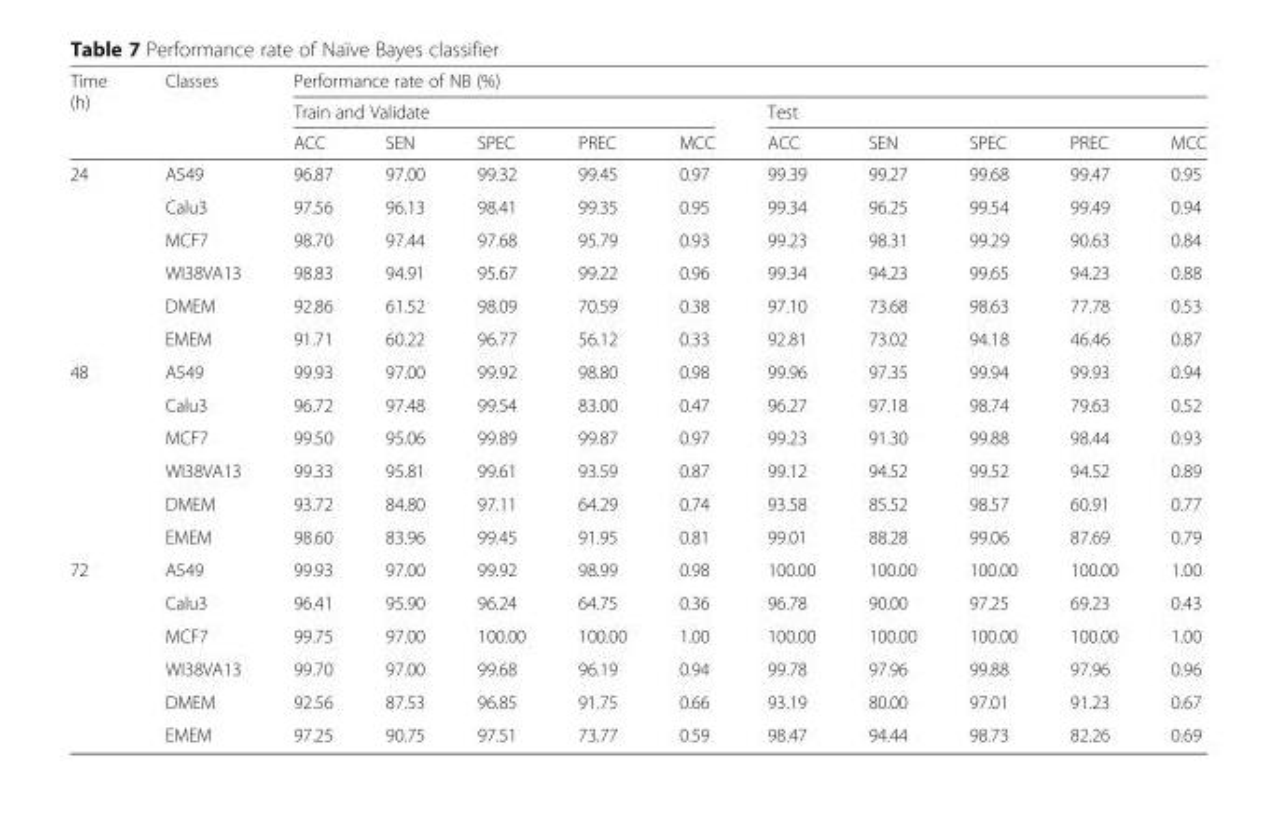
<table><thead><tr><td rowspan="3">Time (h)</td><td rowspan="3">Classes</td><td colspan="10">Performance rate of NB (%)</td></tr><tr><td colspan="5">Train and Validate</td><td colspan="5">Test</td></tr><tr><td>ACC</td><td>SEN</td><td>SPEC</td><td>PREC</td><td>MCC</td><td>ACC</td><td>SEN</td><td>SPEC</td><td>PREC</td><td>MCC</td></tr></thead><tbody><tr><td rowspan="6">24</td><td>A549</td><td>96.87</td><td>97.00</td><td>99.32</td><td>99.45</td><td>0.97</td><td>99.39</td><td>99.27</td><td>99.68</td><td>99.47</td><td>0.95</td></tr><tr><td>Calu3</td><td>97.56</td><td>96.13</td><td>98.41</td><td>99.35</td><td>0.95</td><td>99.34</td><td>96.25</td><td>99.54</td><td>99.49</td><td>0.94</td></tr><tr><td>MCF7</td><td>98.70</td><td>97.44</td><td>97.68</td><td>95.79</td><td>0.93</td><td>99.23</td><td>98.31</td><td>99.29</td><td>90.63</td><td>0.84</td></tr><tr><td>WI38VA13</td><td>98.83</td><td>94.91</td><td>95.67</td><td>99.22</td><td>0.96</td><td>99.34</td><td>94.23</td><td>99.65</td><td>94.23</td><td>0.88</td></tr><tr><td>DMEM</td><td>92.86</td><td>61.52</td><td>98.09</td><td>70.59</td><td>0.38</td><td>97.10</td><td>73.68</td><td>98.63</td><td>77.78</td><td>0.53</td></tr><tr><td>EMEM</td><td>91.71</td><td>60.22</td><td>96.77</td><td>56.12</td><td>0.33</td><td>92.81</td><td>73.02</td><td>94.18</td><td>46.46</td><td>0.87</td></tr><tr><td rowspan="6">48</td><td>A549</td><td>99.93</td><td>97.00</td><td>99.92</td><td>98.80</td><td>0.98</td><td>99.96</td><td>97.35</td><td>99.94</td><td>99.93</td><td>0.94</td></tr><tr><td>Calu3</td><td>96.72</td><td>97.48</td><td>99.54</td><td>83.00</td><td>0.47</td><td>96.27</td><td>97.18</td><td>98.74</td><td>79.63</td><td>0.52</td></tr><tr><td>MCF7</td><td>99.50</td><td>95.06</td><td>99.89</td><td>99.87</td><td>0.97</td><td>99.23</td><td>91.30</td><td>99.88</td><td>98.44</td><td>0.93</td></tr><tr><td>WI38VA13</td><td>99.33</td><td>95.81</td><td>99.61</td><td>93.59</td><td>0.87</td><td>99.12</td><td>94.52</td><td>99.52</td><td>94.52</td><td>0.89</td></tr><tr><td>DMEM</td><td>93.72</td><td>84.80</td><td>97.11</td><td>64.29</td><td>0.74</td><td>93.58</td><td>85.52</td><td>98.57</td><td>60.91</td><td>0.77</td></tr><tr><td>EMEM</td><td>98.60</td><td>83.96</td><td>99.45</td><td>91.95</td><td>0.81</td><td>99.01</td><td>88.28</td><td>99.06</td><td>87.69</td><td>0.79</td></tr><tr><td rowspan="6">72</td><td>A549</td><td>99.93</td><td>97.00</td><td>99.92</td><td>98.99</td><td>0.98</td><td>100.00</td><td>100.00</td><td>100.00</td><td>100.00</td><td>1.00</td></tr><tr><td>Calu3</td><td>96.41</td><td>95.90</td><td>96.24</td><td>64.75</td><td>0.36</td><td>96.78</td><td>90.00</td><td>97.25</td><td>69.23</td><td>0.43</td></tr><tr><td>MCF7</td><td>99.75</td><td>97.00</td><td>100.00</td><td>100.00</td><td>1.00</td><td>100.00</td><td>100.00</td><td>100.00</td><td>100.00</td><td>1.00</td></tr><tr><td>WI38VA13</td><td>99.70</td><td>97.00</td><td>99.68</td><td>96.19</td><td>0.94</td><td>99.78</td><td>97.96</td><td>99.88</td><td>97.96</td><td>0.96</td></tr><tr><td>DMEM</td><td>92.56</td><td>87.53</td><td>96.85</td><td>91.75</td><td>0.66</td><td>93.19</td><td>80.00</td><td>97.01</td><td>91.23</td><td>0.67</td></tr><tr><td>EMEM</td><td>97.25</td><td>90.75</td><td>97.51</td><td>73.77</td><td>0.59</td><td>98.47</td><td>94.44</td><td>98.73</td><td>82.26</td><td>0.69</td></tr></tbody></table>